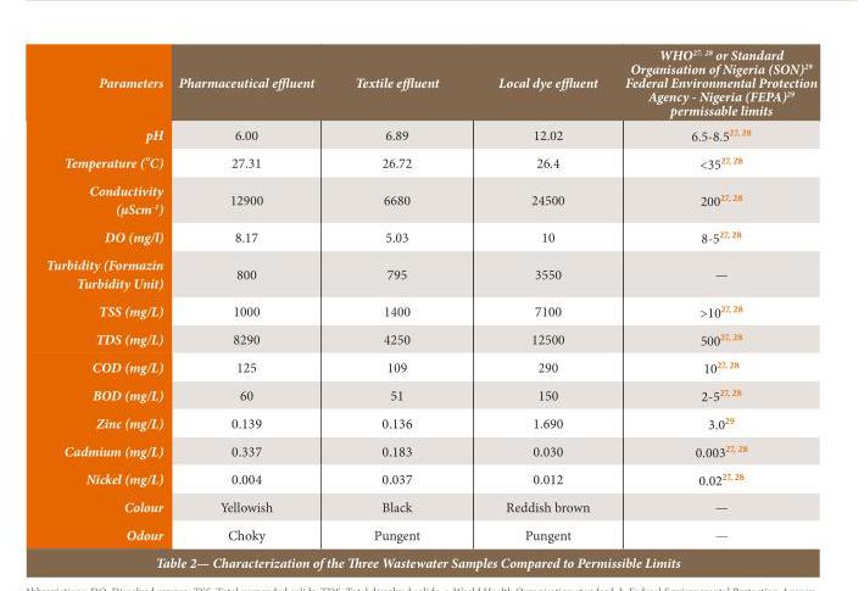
<table><thead><tr><td>Parameters</td><td>Pharmaceutical effluent</td><td>Textile effluent</td><td>Local dye effluent</td><td>WHO<sup>27</sup>, <sup>28</sup> or Standard Organisation of Nigeria (SON)<sup>29</sup> Federal Environmental Protection Agency - Nigeria (FEPA)<sup>29</sup> permissable limits</td></tr></thead><tbody><tr><td>pH</td><td>6.00</td><td>6.89</td><td>12.02</td><td>6.5-8.5<sup>27</sup>, <sup>28</sup></td></tr><tr><td>Temperature (ºC)</td><td>27.31</td><td>26.72</td><td>26.4</td><td>&lt;35<sup>27</sup>, <sup>28</sup></td></tr><tr><td>Conductivity (µScm<sup>-1</sup>)</td><td>12900</td><td>6680</td><td>24500</td><td>200<sup>27</sup>, <sup>28</sup></td></tr><tr><td>DO (mg/l)</td><td>8.17</td><td>5.03</td><td>10</td><td>8-5<sup>27</sup>, <sup>28</sup></td></tr><tr><td>Turbidity (Formazin Turbidity Unit)</td><td>800</td><td>795</td><td>3550</td><td>—</td></tr><tr><td>TSS (mg/L)</td><td>1000</td><td>1400</td><td>7100</td><td>&gt;10<sup>27</sup>, <sup>28</sup></td></tr><tr><td>TDS (mg/L)</td><td>8290</td><td>4250</td><td>12500</td><td>500<sup>27</sup>, <sup>28</sup></td></tr><tr><td>COD (mg/L)</td><td>125</td><td>109</td><td>290</td><td>10<sup>27</sup>, <sup>28</sup></td></tr><tr><td>BOD (mg/L)</td><td>60</td><td>51</td><td>150</td><td>2-5<sup>27</sup>, <sup>28</sup></td></tr><tr><td>Zinc (mg/L)</td><td>0.139</td><td>0.136</td><td>1.690</td><td>3.0<sup>29</sup></td></tr><tr><td>Cadmium (mg/L)</td><td>0.337</td><td>0.183</td><td>0.030</td><td>0.003<sup>27</sup>, <sup>28</sup></td></tr><tr><td>Nickel (mg/L)</td><td>0.004</td><td>0.037</td><td>0.012</td><td>0.02<sup>27</sup>, <sup>28</sup></td></tr><tr><td>Colour</td><td>Yellowish</td><td>Black</td><td>Reddish brown</td><td>—</td></tr><tr><td>Odour</td><td>Choky</td><td>Pungent</td><td>Pungent</td><td>—</td></tr></tbody></table>